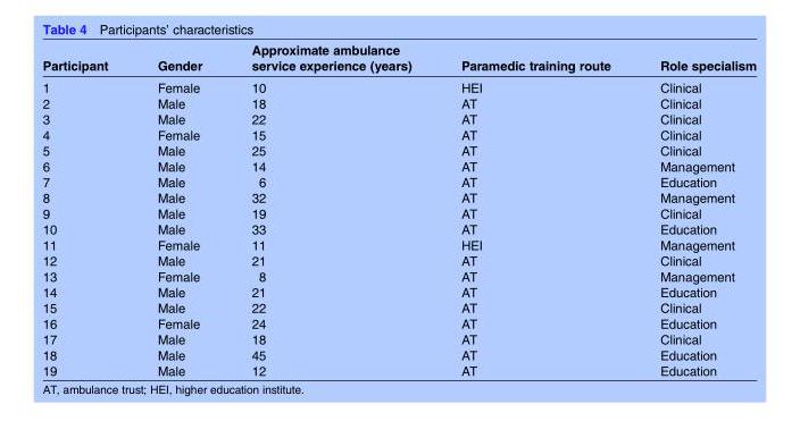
<table><thead><tr><td>Participant</td><td>Gender</td><td>Approximate ambulance service experience (years)</td><td>Paramedic training route</td><td>Role specialism</td></tr></thead><tbody><tr><td>1</td><td>Female</td><td>10</td><td>HEI</td><td>Clinical</td></tr><tr><td>2</td><td>Male</td><td>18</td><td>AT</td><td>Clinical</td></tr><tr><td>3</td><td>Male</td><td>22</td><td>AT</td><td>Clinical</td></tr><tr><td>4</td><td>Female</td><td>15</td><td>AT</td><td>Clinical</td></tr><tr><td>5</td><td>Male</td><td>25</td><td>AT</td><td>Clinical</td></tr><tr><td>6</td><td>Male</td><td>14</td><td>AT</td><td>Management</td></tr><tr><td>7</td><td>Male</td><td>6</td><td>AT</td><td>Education</td></tr><tr><td>8</td><td>Male</td><td>32</td><td>AT</td><td>Management</td></tr><tr><td>9</td><td>Male</td><td>19</td><td>AT</td><td>Clinical</td></tr><tr><td>10</td><td>Male</td><td>33</td><td>AT</td><td>Education</td></tr><tr><td>11</td><td>Female</td><td>11</td><td>HEI</td><td>Management</td></tr><tr><td>12</td><td>Male</td><td>21</td><td>AT</td><td>Clinical</td></tr><tr><td>13</td><td>Female</td><td>8</td><td>AT</td><td>Management</td></tr><tr><td>14</td><td>Male</td><td>21</td><td>AT</td><td>Education</td></tr><tr><td>15</td><td>Male</td><td>22</td><td>AT</td><td>Clinical</td></tr><tr><td>16</td><td>Female</td><td>24</td><td>AT</td><td>Education</td></tr><tr><td>17</td><td>Male</td><td>18</td><td>AT</td><td>Clinical</td></tr><tr><td>18</td><td>Male</td><td>45</td><td>AT</td><td>Education</td></tr><tr><td>19</td><td>Male</td><td>12</td><td>AT</td><td>Education</td></tr></tbody></table>